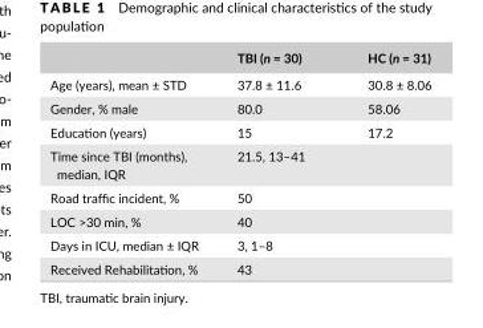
<table><thead><tr><td></td><td>TBI (n = 30)</td><td>HC (n = 31)</td></tr></thead><tbody><tr><td>Age (years), mean ± STD</td><td>37.8 ± 11.6</td><td>30.8 ± 8.06</td></tr><tr><td>Gender, % male</td><td>80.0</td><td>58.06</td></tr><tr><td>Education (years)</td><td>15</td><td>17.2</td></tr><tr><td>Time since TBI (months), median, IQR</td><td>21.5, 13–41</td><td></td></tr><tr><td>Road traffic incident, %</td><td>50</td><td></td></tr><tr><td>LOC &gt;30 min, %</td><td>40</td><td></td></tr><tr><td>Days in ICU, median ± IQR</td><td>3, 1–8</td><td></td></tr><tr><td>Received Rehabilitation, %</td><td>43</td><td></td></tr></tbody></table>